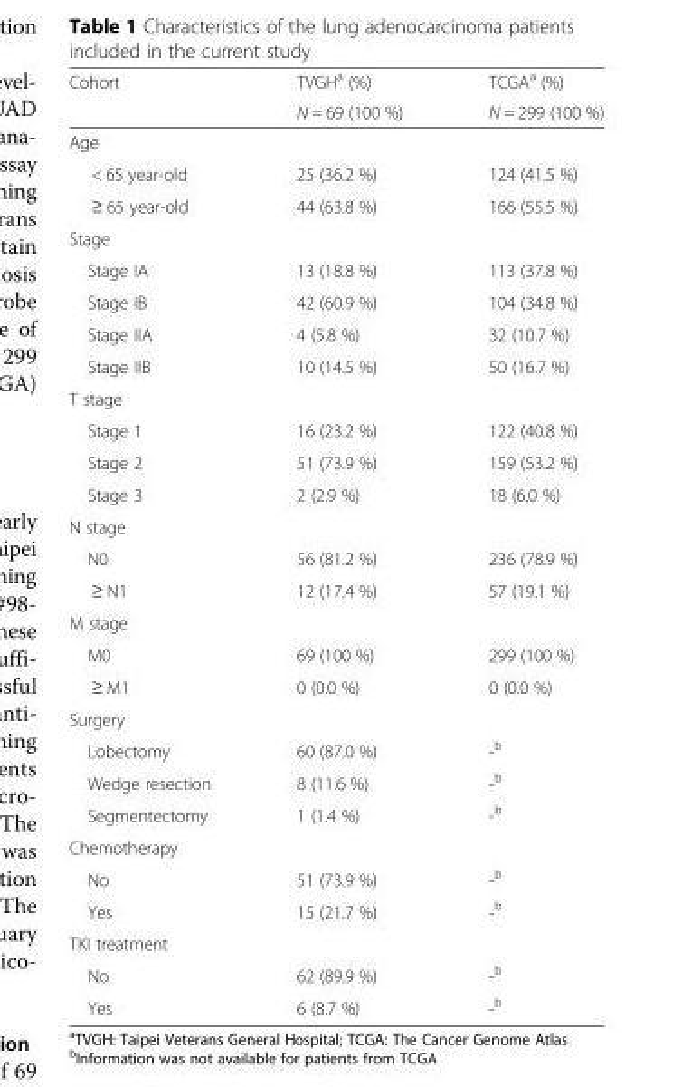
<table><thead><tr><td rowspan="2">Cohort</td><td rowspan="2">TVGH<sup>a</sup> (%) N = 69 (100 %)</td><td rowspan="2">TCGA<sup>a</sup> (%) N = 299 (100 %)</td></tr><tr></tr></thead><tbody><tr><td colspan="3">Age</td></tr><tr><td>&lt; 65 year-old</td><td>25 (36.2 %)</td><td>124 (41.5 %)</td></tr><tr><td>≥ 65 year-old</td><td>44 (63.8 %)</td><td>166 (55.5 %)</td></tr><tr><td colspan="3">Stage</td></tr><tr><td>Stage IA</td><td>13 (18.8 %)</td><td>113 (37.8 %)</td></tr><tr><td>Stage IB</td><td>42 (60.9 %)</td><td>104 (34.8 %)</td></tr><tr><td>Stage IIA</td><td>4 (5.8 %)</td><td>32 (10.7 %)</td></tr><tr><td>Stage IIB</td><td>10 (14.5 %)</td><td>50 (16.7 %)</td></tr><tr><td colspan="3">T stage</td></tr><tr><td>Stage 1</td><td>16 (23.2 %)</td><td>122 (40.8 %)</td></tr><tr><td>Stage 2</td><td>51 (73.9 %)</td><td>159 (53.2 %)</td></tr><tr><td>Stage 3</td><td>2 (2.9 %)</td><td>18 (6.0 %)</td></tr><tr><td colspan="3">N stage</td></tr><tr><td>N0</td><td>56 (81.2 %)</td><td>236 (78.9 %)</td></tr><tr><td>≥ N1</td><td>12 (17.4 %)</td><td>57 (19.1 %)</td></tr><tr><td colspan="3">M stage</td></tr><tr><td>M0</td><td>69 (100 %)</td><td>299 (100 %)</td></tr><tr><td>≥ M1</td><td>0 (0.0 %)</td><td>0 (0.0 %)</td></tr><tr><td colspan="3">Surgery</td></tr><tr><td>Lobectomy</td><td>60 (87.0 %)</td><td>-<sup>b</sup></td></tr><tr><td>Wedge resection</td><td>8 (11.6 %)</td><td>-<sup>b</sup></td></tr><tr><td>Segmentectomy</td><td>1 (1.4 %)</td><td>-<sup>b</sup></td></tr><tr><td colspan="3">Chemotherapy</td></tr><tr><td>No</td><td>51 (73.9 %)</td><td>-<sup>b</sup></td></tr><tr><td>Yes</td><td>15 (21.7 %)</td><td>-<sup>b</sup></td></tr><tr><td colspan="3">TKI treatment</td></tr><tr><td>No</td><td>62 (89.9 %)</td><td>-<sup>b</sup></td></tr><tr><td>Yes</td><td>6 (8.7 %)</td><td>-<sup>b</sup></td></tr></tbody></table>